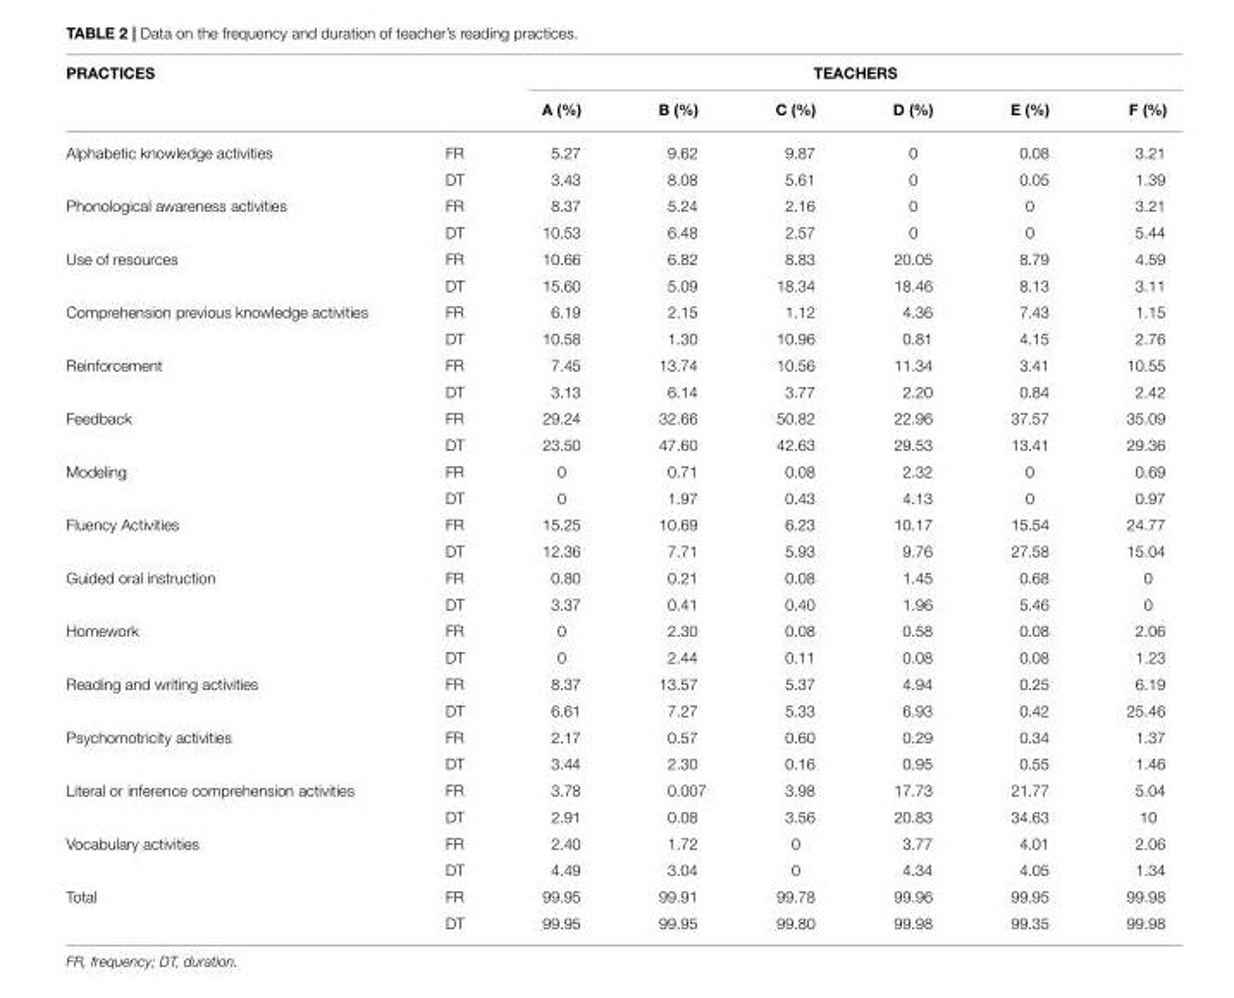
<table><thead><tr><td rowspan="2">PRACTICES</td><td rowspan="2"></td><td colspan="6">TEACHERS</td></tr><tr><td>A (%)</td><td>B (%)</td><td>C (%)</td><td>D (%)</td><td>E (%)</td><td>F (%)</td></tr></thead><tbody><tr><td rowspan="2">Alphabetic knowledge activities</td><td>FR</td><td>5.27</td><td>9.62</td><td>9.87</td><td>0</td><td>0.08</td><td>3.21</td></tr><tr><td>DT</td><td>3.43</td><td>8.08</td><td>5.61</td><td>0</td><td>0.05</td><td>1.39</td></tr><tr><td rowspan="2">Phonological awareness activities</td><td>FR</td><td>8.37</td><td>5.24</td><td>2.16</td><td>0</td><td>0</td><td>3.21</td></tr><tr><td>DT</td><td>10.53</td><td>6.48</td><td>2.57</td><td>0</td><td>0</td><td>5.44</td></tr><tr><td rowspan="2">Use of resources</td><td>FR</td><td>10.66</td><td>6.82</td><td>8.83</td><td>20.05</td><td>8.79</td><td>4.59</td></tr><tr><td>DT</td><td>15.60</td><td>5.09</td><td>18.34</td><td>18.46</td><td>8.13</td><td>3.11</td></tr><tr><td rowspan="2">Comprehension previous knowledge activities</td><td>FR</td><td>6.19</td><td>2.15</td><td>1.12</td><td>4.36</td><td>7.43</td><td>1.15</td></tr><tr><td>DT</td><td>10.58</td><td>1.30</td><td>10.96</td><td>0.81</td><td>4.15</td><td>2.76</td></tr><tr><td rowspan="2">Reinforcement</td><td>FR</td><td>7.45</td><td>13.74</td><td>10.56</td><td>11.34</td><td>3.41</td><td>10.55</td></tr><tr><td>DT</td><td>3.13</td><td>6.14</td><td>3.77</td><td>2.20</td><td>0.84</td><td>2.42</td></tr><tr><td rowspan="2">Feedback</td><td>FR</td><td>29.24</td><td>32.66</td><td>50.82</td><td>22.96</td><td>37.57</td><td>35.09</td></tr><tr><td>DT</td><td>23.50</td><td>47.60</td><td>42.63</td><td>29.53</td><td>13.41</td><td>29.36</td></tr><tr><td rowspan="2">Modeling</td><td>FR</td><td>0</td><td>0.71</td><td>0.08</td><td>2.32</td><td>0</td><td>0.69</td></tr><tr><td>DT</td><td>0</td><td>1.97</td><td>0.43</td><td>4.13</td><td>0</td><td>0.97</td></tr><tr><td rowspan="2">Fluency Activities</td><td>FR</td><td>15.25</td><td>10.69</td><td>6.23</td><td>10.17</td><td>15.54</td><td>24.77</td></tr><tr><td>DT</td><td>12.36</td><td>7.71</td><td>5.93</td><td>9.76</td><td>27.58</td><td>15.04</td></tr><tr><td rowspan="2">Guided oral instruction</td><td>FR</td><td>0.80</td><td>0.21</td><td>0.08</td><td>1.45</td><td>0.68</td><td>0</td></tr><tr><td>DT</td><td>3.37</td><td>0.41</td><td>0.40</td><td>1.96</td><td>5.46</td><td>0</td></tr><tr><td rowspan="2">Homework</td><td>FR</td><td>0</td><td>2.30</td><td>0.08</td><td>0.58</td><td>0.08</td><td>2.06</td></tr><tr><td>DT</td><td>0</td><td>2.44</td><td>0.11</td><td>0.08</td><td>0.08</td><td>1.23</td></tr><tr><td rowspan="2">Reading and writing activities</td><td>FR</td><td>8.37</td><td>13.57</td><td>5.37</td><td>4.94</td><td>0.25</td><td>6.19</td></tr><tr><td>DT</td><td>6.61</td><td>7.27</td><td>5.33</td><td>6.93</td><td>0.42</td><td>25.46</td></tr><tr><td rowspan="2">Psychomotricity activities</td><td>FR</td><td>2.17</td><td>0.57</td><td>0.60</td><td>0.29</td><td>0.34</td><td>1.37</td></tr><tr><td>DT</td><td>3.44</td><td>2.30</td><td>0.16</td><td>0.95</td><td>0.55</td><td>1.46</td></tr><tr><td rowspan="2">Literal or inference comprehension activities</td><td>FR</td><td>3.78</td><td>0.007</td><td>3.98</td><td>17.73</td><td>21.77</td><td>5.04</td></tr><tr><td>DT</td><td>2.91</td><td>0.08</td><td>3.56</td><td>20.83</td><td>34.63</td><td>10</td></tr><tr><td rowspan="2">Vocabulary activities</td><td>FR</td><td>2.40</td><td>1.72</td><td>0</td><td>3.77</td><td>4.01</td><td>2.06</td></tr><tr><td>DT</td><td>4.49</td><td>3.04</td><td>0</td><td>4.34</td><td>4.05</td><td>1.34</td></tr><tr><td rowspan="2">Total</td><td>FR</td><td>99.95</td><td>99.91</td><td>99.78</td><td>99.96</td><td>99.95</td><td>99.98</td></tr><tr><td>DT</td><td>99.95</td><td>99.95</td><td>99.80</td><td>99.98</td><td>99.35</td><td>99.98</td></tr></tbody></table>